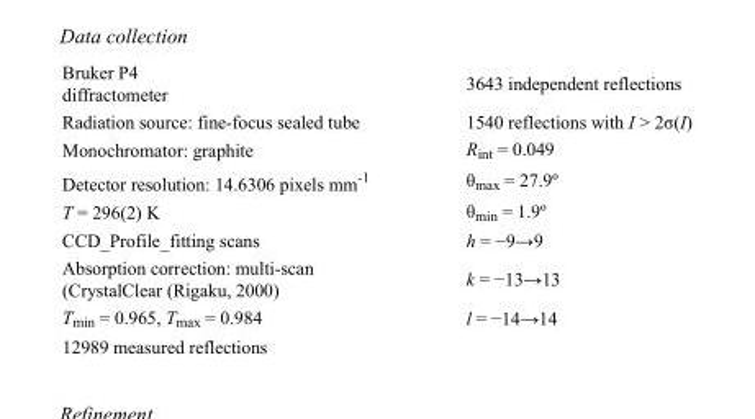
<table><tbody><tr><td>Bruker P4 diffractometer</td><td>3643 independent reflections</td></tr><tr><td>Radiation source: fine-focus sealed tube</td><td>1540 reflections with I &gt; 2σ(I)</td></tr><tr><td>Monochromator: graphite</td><td>R<sub>int</sub> = 0.049</td></tr><tr><td>Detector resolution: 14.6306 pixels mm<sup>-1</sup></td><td>θ<sub>max</sub> = 27.9º</td></tr><tr><td>T = 296(2) K</td><td>θ<sub>min</sub> = 1.9º</td></tr><tr><td>CCD_Profile_fitting scans</td><td>h = −9→9</td></tr><tr><td>Absorption correction: multi-scan (CrystalClear (Rigaku, 2000)</td><td>k = −13→13</td></tr><tr><td>T<sub>min</sub> = 0.965, T<sub>max</sub> = 0.984</td><td>l = −14→14</td></tr><tr><td>12989 measured reflections</td><td></td></tr></tbody></table>